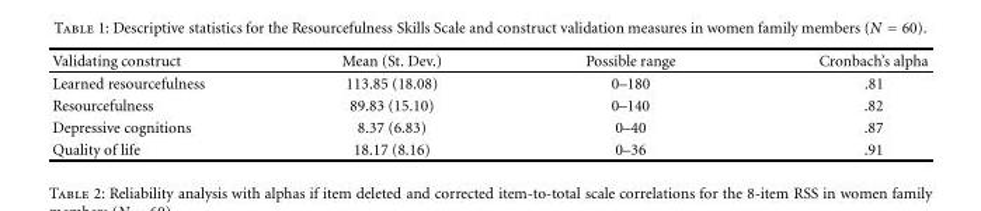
<table><thead><tr><td>Validating construct</td><td>Mean (St. Dev.)</td><td>Possible range</td><td>Cronbach’s alpha</td></tr></thead><tbody><tr><td>Learned resourcefulness</td><td>113.85 (18.08)</td><td>0–180</td><td>.81</td></tr><tr><td>Resourcefulness</td><td>89.83 (15.10)</td><td>0–140</td><td>.82</td></tr><tr><td>Depressive cognitions</td><td>8.37 (6.83)</td><td>0–40</td><td>.87</td></tr><tr><td>Quality of life</td><td>18.17 (8.16)</td><td>0–36</td><td>.91</td></tr></tbody></table>